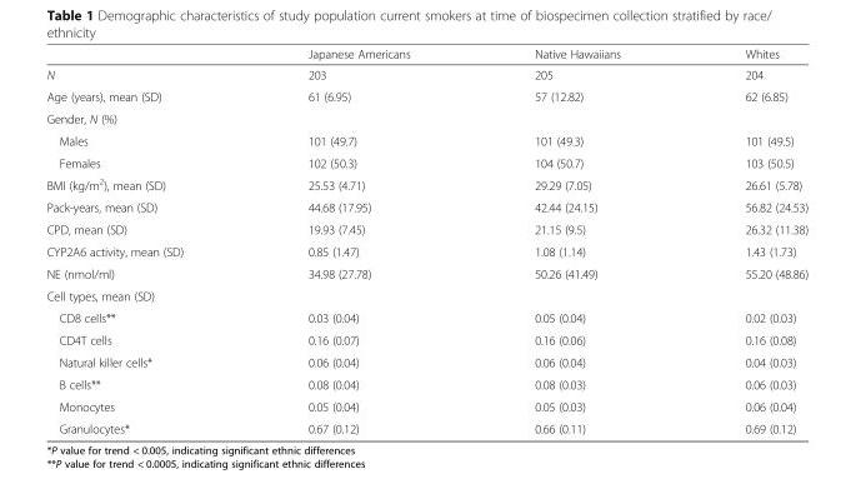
<table><thead><tr><td></td><td>Japanese Americans</td><td>Native Hawaiians</td><td>Whites</td></tr></thead><tbody><tr><td>N</td><td>203</td><td>205</td><td>204</td></tr><tr><td>Age (years), mean (SD)</td><td>61 (6.95)</td><td>57 (12.82)</td><td>62 (6.85)</td></tr><tr><td colspan="4">Gender, N (%)</td></tr><tr><td>Males</td><td>101 (49.7)</td><td>101 (49.3)</td><td>101 (49.5)</td></tr><tr><td>Females</td><td>102 (50.3)</td><td>104 (50.7)</td><td>103 (50.5)</td></tr><tr><td>BMI (kg/m<sup>2</sup>), mean (SD)</td><td>25.53 (4.71)</td><td>29.29 (7.05)</td><td>26.61 (5.78)</td></tr><tr><td>Pack-years, mean (SD)</td><td>44.68 (17.95)</td><td>42.44 (24.15)</td><td>56.82 (24.53)</td></tr><tr><td>CPD, mean (SD)</td><td>19.93 (7.45)</td><td>21.15 (9.5)</td><td>26.32 (11.38)</td></tr><tr><td>CYP2A6 activity, mean (SD)</td><td>0.85 (1.47)</td><td>1.08 (1.14)</td><td>1.43 (1.73)</td></tr><tr><td>NE (nmol/ml)</td><td>34.98 (27.78)</td><td>50.26 (41.49)</td><td>55.20 (48.86)</td></tr><tr><td colspan="4">Cell types, mean (SD)</td></tr><tr><td>CD8 cells**</td><td>0.03 (0.04)</td><td>0.05 (0.04)</td><td>0.02 (0.03)</td></tr><tr><td>CD4T cells</td><td>0.16 (0.07)</td><td>0.16 (0.06)</td><td>0.16 (0.08)</td></tr><tr><td>Natural killer cells*</td><td>0.06 (0.04)</td><td>0.06 (0.04)</td><td>0.04 (0.03)</td></tr><tr><td>B cells**</td><td>0.08 (0.04)</td><td>0.08 (0.03)</td><td>0.06 (0.03)</td></tr><tr><td>Monocytes</td><td>0.05 (0.04)</td><td>0.05 (0.03)</td><td>0.06 (0.04)</td></tr><tr><td>Granulocytes*</td><td>0.67 (0.12)</td><td>0.66 (0.11)</td><td>0.69 (0.12)</td></tr></tbody></table>